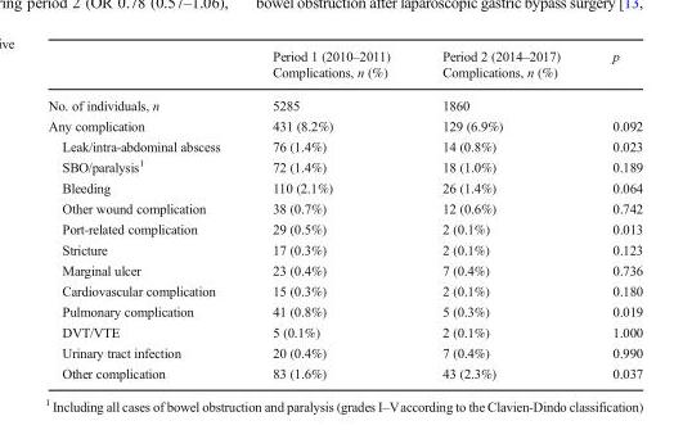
<table><thead><tr><td rowspan="2"></td><td rowspan="2">Period 1 (2010–2011) Complications, n (%)</td><td rowspan="2">Period 2 (2014–2017) Complications, n (%)</td><td rowspan="2">p</td></tr><tr></tr></thead><tbody><tr><td>No. of individuals, n</td><td>5285</td><td>1860</td><td></td></tr><tr><td>Any complication</td><td>431 (8.2%)</td><td>129 (6.9%)</td><td>0.092</td></tr><tr><td>Leak/intra-abdominal abscess</td><td>76 (1.4%)</td><td>14 (0.8%)</td><td>0.023</td></tr><tr><td>SBO/paralysis<sup>1</sup></td><td>72 (1.4%)</td><td>18 (1.0%)</td><td>0.189</td></tr><tr><td>Bleeding</td><td>110 (2.1%)</td><td>26 (1.4%)</td><td>0.064</td></tr><tr><td>Other wound complication</td><td>38 (0.7%)</td><td>12 (0.6%)</td><td>0.742</td></tr><tr><td>Port-related complication</td><td>29 (0.5%)</td><td>2 (0.1%)</td><td>0.013</td></tr><tr><td>Stricture</td><td>17 (0.3%)</td><td>2 (0.1%)</td><td>0.123</td></tr><tr><td>Marginal ulcer</td><td>23 (0.4%)</td><td>7 (0.4%)</td><td>0.736</td></tr><tr><td>Cardiovascular complication</td><td>15 (0.3%)</td><td>2 (0.1%)</td><td>0.180</td></tr><tr><td>Pulmonary complication</td><td>41 (0.8%)</td><td>5 (0.3%)</td><td>0.019</td></tr><tr><td>DVT/VTE</td><td>5 (0.1%)</td><td>2 (0.1%)</td><td>1.000</td></tr><tr><td>Urinary tract infection</td><td>20 (0.4%)</td><td>7 (0.4%)</td><td>0.990</td></tr><tr><td>Other complication</td><td>83 (1.6%)</td><td>43 (2.3%)</td><td>0.037</td></tr></tbody></table>